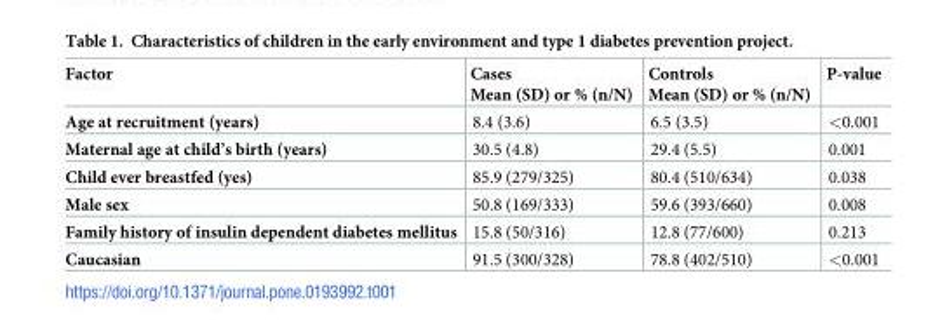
<table><thead><tr><td>Factor</td><td>Cases Mean (SD) or % (n/N)</td><td>Controls Mean (SD) or % (n/N)</td><td>P-value</td></tr></thead><tbody><tr><td>Age at recruitment (years)</td><td>8.4 (3.6)</td><td>6.5 (3.5)</td><td>&lt;0.001</td></tr><tr><td>Maternal age at child’s birth (years)</td><td>30.5 (4.8)</td><td>29.4 (5.5)</td><td>0.001</td></tr><tr><td>Child ever breastfed (yes)</td><td>85.9 (279/325)</td><td>80.4 (510/634)</td><td>0.038</td></tr><tr><td>Male sex</td><td>50.8 (169/333)</td><td>59.6 (393/660)</td><td>0.008</td></tr><tr><td>Family history of insulin dependent diabetes mellitus</td><td>15.8 (50/316)</td><td>12.8 (77/600)</td><td>0.213</td></tr><tr><td>Caucasian</td><td>91.5 (300/328)</td><td>78.8 (402/510)</td><td>&lt;0.001</td></tr></tbody></table>